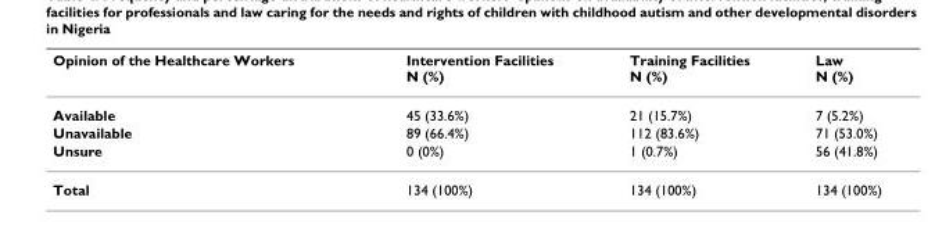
<table><thead><tr><td>Opinion of the Healthcare Workers</td><td>Intervention Facilities N (%)</td><td>Training Facilities N (%)</td><td>Law N (%)</td></tr></thead><tbody><tr><td>Available</td><td>45 (33.6%)</td><td>21 (15.7%)</td><td>7 (5.2%)</td></tr><tr><td>Unavailable</td><td>89 (66.4%)</td><td>112 (83.6%)</td><td>71 (53.0%)</td></tr><tr><td>Unsure</td><td>0 (0%)</td><td>1 (0.7%)</td><td>56 (41.8%)</td></tr><tr><td>Total</td><td>134 (100%)</td><td>134 (100%)</td><td>134 (100%)</td></tr></tbody></table>